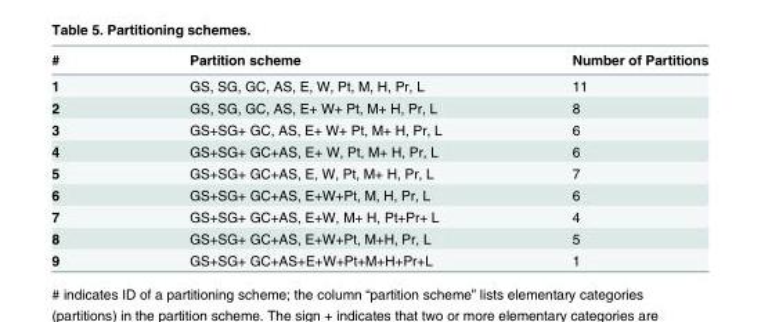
<table><thead><tr><td>#</td><td>Partition scheme</td><td>Number of Partitions</td></tr></thead><tbody><tr><td>1</td><td>GS, SG, GC, AS, E, W, Pt, M, H, Pr, L</td><td>11</td></tr><tr><td>2</td><td>GS, SG, GC, AS, E+ W+ Pt, M+ H, Pr, L</td><td>8</td></tr><tr><td>3</td><td>GS+SG+ GC, AS, E+ W+ Pt, M+ H, Pr, L</td><td>6</td></tr><tr><td>4</td><td>GS+SG+ GC+AS, E+ W, Pt, M+ H, Pr, L</td><td>6</td></tr><tr><td>5</td><td>GS+SG+ GC+AS, E, W, Pt, M+ H, Pr, L</td><td>7</td></tr><tr><td>6</td><td>GS+SG+ GC+AS, E+W+Pt, M, H, Pr, L</td><td>6</td></tr><tr><td>7</td><td>GS+SG+ GC+AS, E+W, M+ H, Pt+Pr+ L</td><td>4</td></tr><tr><td>8</td><td>GS+SG+ GC+AS, E+W+Pt, M+H, Pr, L</td><td>5</td></tr><tr><td>9</td><td>GS+SG+ GC+AS+E+W+Pt+M+H+Pr+L</td><td>1</td></tr></tbody></table>